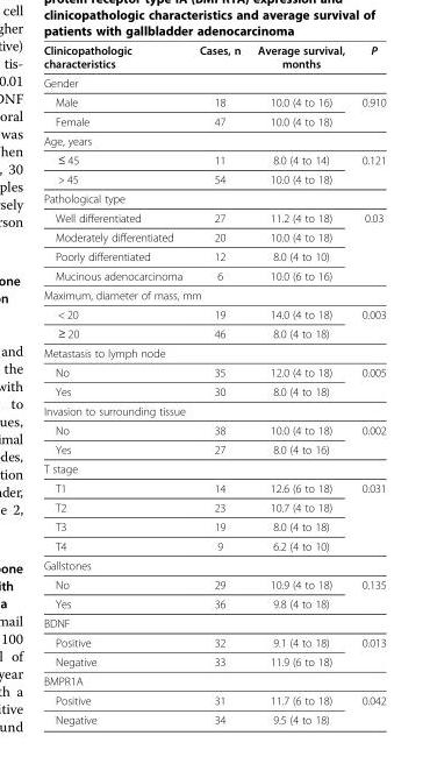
<table><thead><tr><td>Clinicopathologic characteristics</td><td>Cases, n</td><td>Average survival, months</td><td>P</td></tr></thead><tbody><tr><td colspan="4">Gender</td></tr><tr><td>Male</td><td>18</td><td>10.0 (4 to 16)</td><td>0.910</td></tr><tr><td>Female</td><td>47</td><td>10.0 (4 to 18)</td><td></td></tr><tr><td colspan="4">Age, years</td></tr><tr><td>≤ 45</td><td>11</td><td>8.0 (4 to 14)</td><td>0.121</td></tr><tr><td>&gt; 45</td><td>54</td><td>10.0 (4 to 18)</td><td></td></tr><tr><td colspan="4">Pathological type</td></tr><tr><td>Well differentiated</td><td>27</td><td>11.2 (4 to 18)</td><td>0.03</td></tr><tr><td>Moderately differentiated</td><td>20</td><td>10.0 (4 to 18)</td><td></td></tr><tr><td>Poorly differentiated</td><td>12</td><td>8.0 (4 to 10)</td><td></td></tr><tr><td>Mucinous adenocarcinoma</td><td>6</td><td>10.0 (6 to 16)</td><td></td></tr><tr><td colspan="4">Maximum, diameter of mass, mm</td></tr><tr><td>&lt; 20</td><td>19</td><td>14.0 (4 to 18)</td><td>0.003</td></tr><tr><td>≥ 20</td><td>46</td><td>8.0 (4 to 18)</td><td></td></tr><tr><td colspan="4">Metastasis to lymph node</td></tr><tr><td>No</td><td>35</td><td>12.0 (4 to 18)</td><td>0.005</td></tr><tr><td>Yes</td><td>30</td><td>8.0 (4 to 18)</td><td></td></tr><tr><td colspan="4">Invasion to surrounding tissue</td></tr><tr><td>No</td><td>38</td><td>10.0 (4 to 18)</td><td>0.002</td></tr><tr><td>Yes</td><td>27</td><td>8.0 (4 to 16)</td><td></td></tr><tr><td colspan="4">T stage</td></tr><tr><td>T1</td><td>14</td><td>12.6 (6 to 18)</td><td>0.031</td></tr><tr><td>T2</td><td>23</td><td>10.7 (4 to 18)</td><td></td></tr><tr><td>T3</td><td>19</td><td>8.0 (4 to 18)</td><td></td></tr><tr><td>T4</td><td>9</td><td>6.2 (4 to 10)</td><td></td></tr><tr><td colspan="4">Gallstones</td></tr><tr><td>No</td><td>29</td><td>10.9 (4 to 18)</td><td>0.135</td></tr><tr><td>Yes</td><td>36</td><td>9.8 (4 to 18)</td><td></td></tr><tr><td colspan="4">BDNF</td></tr><tr><td>Positive</td><td>32</td><td>9.1 (4 to 18)</td><td>0.013</td></tr><tr><td>Negative</td><td>33</td><td>11.9 (6 to 18)</td><td></td></tr><tr><td colspan="4">BMPR1A</td></tr><tr><td>Positive</td><td>31</td><td>11.7 (6 to 18)</td><td>0.042</td></tr><tr><td>Negative</td><td>34</td><td>9.5 (4 to 18)</td><td></td></tr></tbody></table>